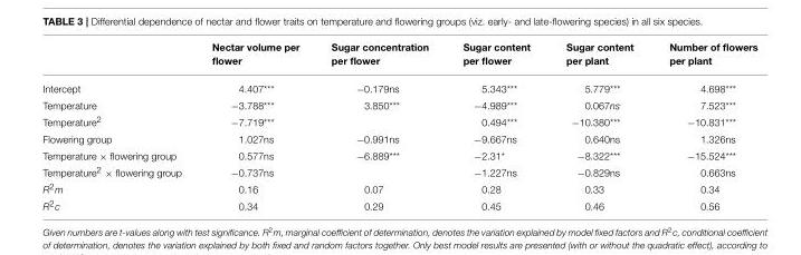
<table><thead><tr><td></td><td>Nectar volume per flower</td><td>Sugar concentration per flower</td><td>Sugar content per flower</td><td>Sugar content per plant</td><td>Number of flowers per plant</td></tr></thead><tbody><tr><td>Intercept</td><td>4.407***</td><td>−0.179ns</td><td>5.343***</td><td>5.779***</td><td>4.698***</td></tr><tr><td>Temperature</td><td>−3.788***</td><td>3.850***</td><td>−4.989***</td><td>0.067ns</td><td>7.523***</td></tr><tr><td>Temperature<sup>2</sup></td><td>−7.719***</td><td></td><td>0.494***</td><td>−10.380***</td><td>−10.831***</td></tr><tr><td>Flowering group</td><td>1.027ns</td><td>−0.991ns</td><td>−9.667ns</td><td>0.640ns</td><td>1.326ns</td></tr><tr><td>Temperature × flowering group</td><td>0.577ns</td><td>−6.889***</td><td>−2.31*</td><td>−8.322***</td><td>−15.524***</td></tr><tr><td>Temperature<sup>2</sup> × flowering group</td><td>−0.737ns</td><td></td><td>−1.227ns</td><td>−0.829ns</td><td>0.663ns</td></tr><tr><td>R<sup>2</sup>m</td><td>0.16</td><td>0.07</td><td>0.28</td><td>0.33</td><td>0.34</td></tr><tr><td>R<sup>2</sup>c</td><td>0.34</td><td>0.29</td><td>0.45</td><td>0.46</td><td>0.56</td></tr></tbody></table>